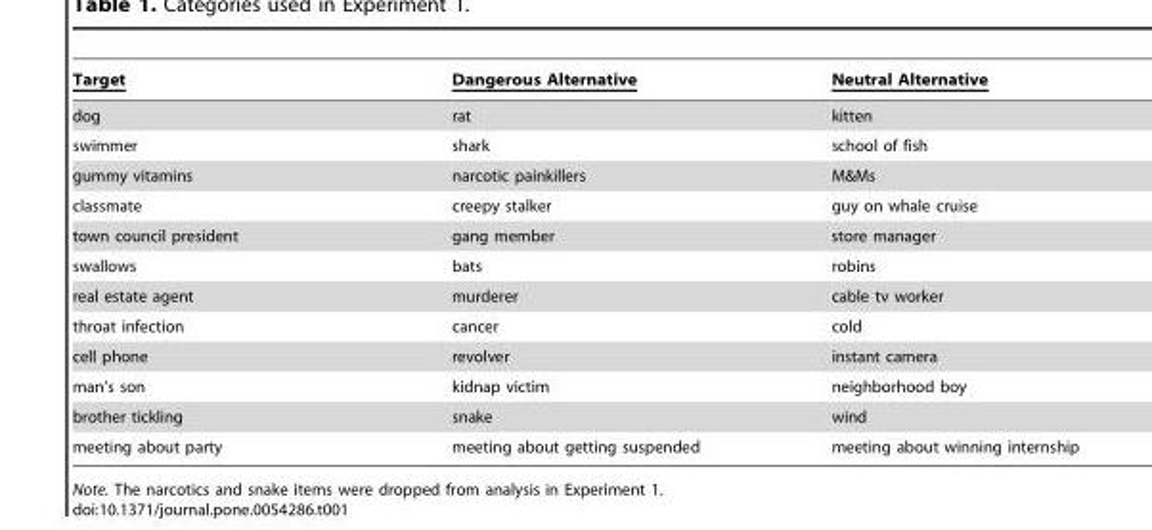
<table><thead><tr><td>Target</td><td>Dangerous Alternative</td><td>Neutral Alternative</td></tr></thead><tbody><tr><td>dog</td><td>rat</td><td>kitten</td></tr><tr><td>swimmer</td><td>shark</td><td>school of fish</td></tr><tr><td>gummy vitamins</td><td>narcotic painkillers</td><td>M&amp;Ms</td></tr><tr><td>classmate</td><td>creepy stalker</td><td>guy on whale cruise</td></tr><tr><td>town council president</td><td>gang member</td><td>store manager</td></tr><tr><td>swallows</td><td>bats</td><td>robins</td></tr><tr><td>real estate agent</td><td>murderer</td><td>cable tv worker</td></tr><tr><td>throat infection</td><td>cancer</td><td>cold</td></tr><tr><td>cell phone</td><td>revolver</td><td>instant camera</td></tr><tr><td>man’s son</td><td>kidnap victim</td><td>neighborhood boy</td></tr><tr><td>brother tickling</td><td>snake</td><td>wind</td></tr><tr><td>meeting about party</td><td>meeting about getting suspended</td><td>meeting about winning internship</td></tr></tbody></table>